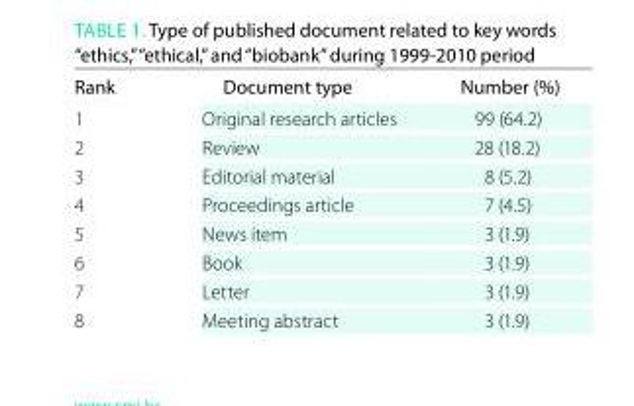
<table><thead><tr><td>Rank</td><td>Document type</td><td>Number (%)</td></tr></thead><tbody><tr><td>1</td><td>Original research articles</td><td>99 (64.2)</td></tr><tr><td>2</td><td>Review</td><td>28 (18.2)</td></tr><tr><td>3</td><td>Editorial material</td><td>8 (5.2)</td></tr><tr><td>4</td><td>Proceedings article</td><td>7 (4.5)</td></tr><tr><td>5</td><td>News item</td><td>3 (1.9)</td></tr><tr><td>6</td><td>Book</td><td>3 (1.9)</td></tr><tr><td>7</td><td>Letter</td><td>3 (1.9)</td></tr><tr><td>8</td><td>Meeting abstract</td><td>3 (1.9)</td></tr></tbody></table>